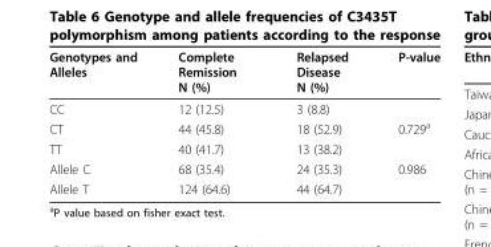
<table><thead><tr><td>Genotypes and Alleles</td><td>Complete Remission N (%)</td><td>Relapsed Disease N (%)</td><td>P-value</td></tr></thead><tbody><tr><td>CC</td><td>12 (12.5)</td><td>3 (8.8)</td><td></td></tr><tr><td>CT</td><td>44 (45.8)</td><td>18 (52.9)</td><td>0.729<sup>a</sup></td></tr><tr><td>TT</td><td>40 (41.7)</td><td>13 (38.2)</td><td></td></tr><tr><td>Allele C</td><td>68 (35.4)</td><td>24 (35.3)</td><td>0.986</td></tr><tr><td>Allele T</td><td>124 (64.6)</td><td>44 (64.7)</td><td></td></tr></tbody></table>